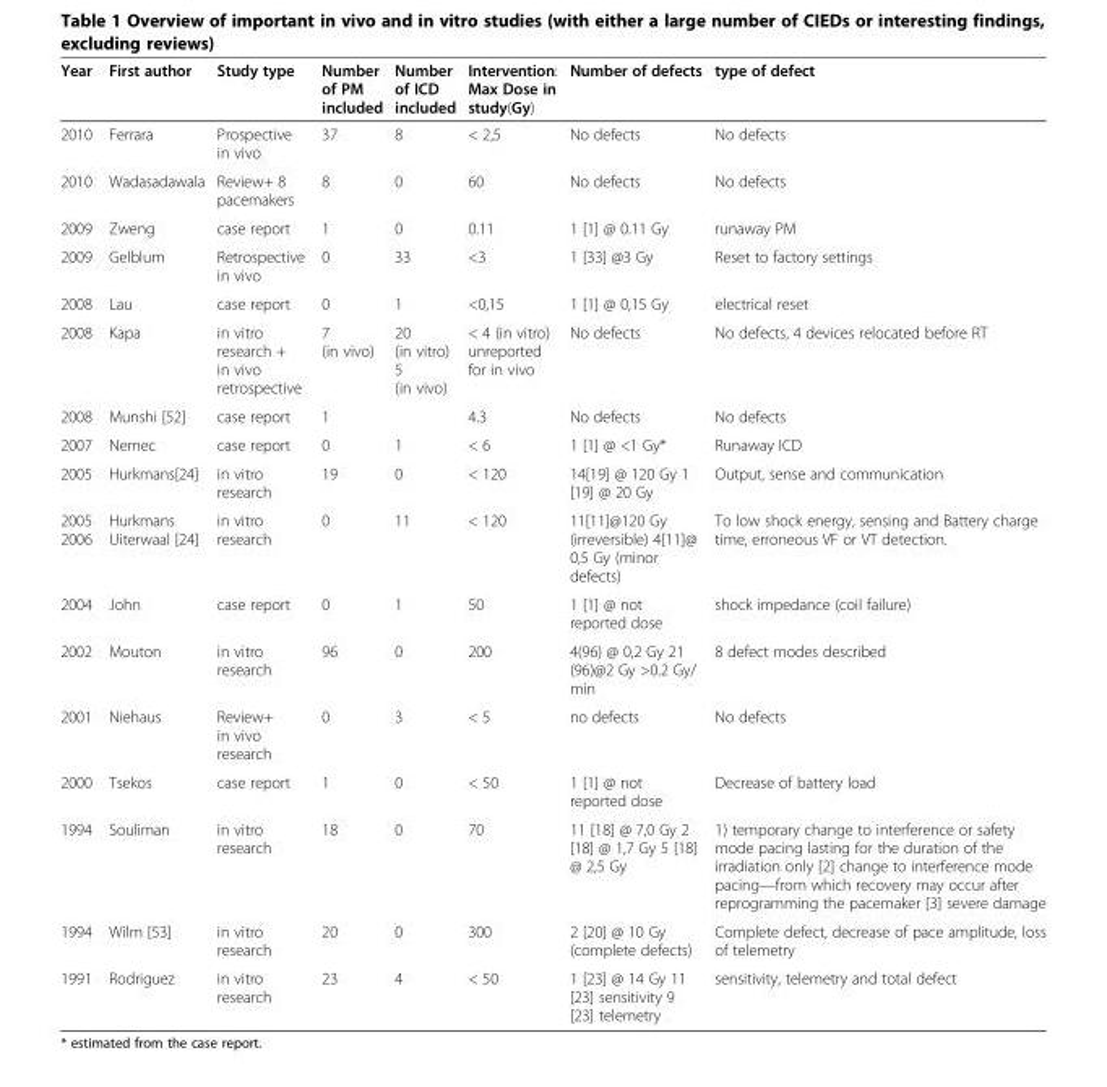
<table><thead><tr><td>Year</td><td>First author</td><td>Study type</td><td>Number of PM included</td><td>Number of ICD included</td><td>Intervention: Max Dose in study(Gy)</td><td>Number of defects</td><td>type of defect</td></tr></thead><tbody><tr><td>2010</td><td>Ferrara</td><td>Prospective in vivo</td><td>37</td><td>8</td><td>&lt; 2,5</td><td>No defects</td><td>No defects</td></tr><tr><td>2010</td><td>Wadasadawala</td><td>Review+ 8 pacemakers</td><td>8</td><td>0</td><td>60</td><td>No defects</td><td>No defects</td></tr><tr><td>2009</td><td>Zweng</td><td>case report</td><td>1</td><td>0</td><td>0.11</td><td>1 [1] @ 0.11 Gy</td><td>runaway PM</td></tr><tr><td>2009</td><td>Gelblum</td><td>Retrospective in vivo</td><td>0</td><td>33</td><td>&lt;3</td><td>1 [33] @3 Gy</td><td>Reset to factory settings</td></tr><tr><td>2008</td><td>Lau</td><td>case report</td><td>0</td><td>1</td><td>&lt;0,15</td><td>1 [1] @ 0,15 Gy</td><td>electrical reset</td></tr><tr><td>2008</td><td>Kapa</td><td>in vitro research + in vivo retrospective</td><td>7 (in vivo)</td><td>20 (in vitro) 5 (in vivo)</td><td>&lt; 4 (in vitro) unreported for in vivo</td><td>No defects</td><td>No defects, 4 devices relocated before RT</td></tr><tr><td>2008</td><td>Munshi [52]</td><td>case report</td><td>1</td><td></td><td>4.3</td><td>No defects</td><td>No defects</td></tr><tr><td>2007</td><td>Nemec</td><td>case report</td><td>0</td><td>1</td><td>&lt; 6</td><td>1 [1] @ &lt;1 Gy*</td><td>Runaway ICD</td></tr><tr><td>2005</td><td>Hurkmans[24]</td><td>in vitro research</td><td>19</td><td>0</td><td>&lt; 120</td><td>14[19] @ 120 Gy 1 [19] @ 20 Gy</td><td>Output, sense and communication</td></tr><tr><td>2005 2006</td><td>Hurkmans Uiterwaal [24]</td><td>in vitro research</td><td>0</td><td>11</td><td>&lt; 120</td><td>11[11]@120 Gy (irreversible) 4[11]@ 0,5 Gy (minor defects)</td><td>To low shock energy, sensing and Battery charge time, erroneous VF or VT detection.</td></tr><tr><td>2004</td><td>John</td><td>case report</td><td>0</td><td>1</td><td>50</td><td>1 [1] @ not reported dose</td><td>shock impedance (coil failure)</td></tr><tr><td>2002</td><td>Mouton</td><td>in vitro research</td><td>96</td><td>0</td><td>200</td><td>4(96) @ 0,2 Gy 21 (96)@2 Gy &gt;0.2 Gy/ min</td><td>8 defect modes described</td></tr><tr><td>2001</td><td>Niehaus</td><td>Review+ in vivo research</td><td>0</td><td>3</td><td>&lt; 5</td><td>no defects</td><td>No defects</td></tr><tr><td>2000</td><td>Tsekos</td><td>case report</td><td>1</td><td>0</td><td>&lt; 50</td><td>1 [1] @ not reported dose</td><td>Decrease of battery load</td></tr><tr><td>1994</td><td>Souliman</td><td>in vitro research</td><td>18</td><td>0</td><td>70</td><td>11 [18] @ 7,0 Gy 2 [18] @ 1,7 Gy 5 [18] @ 2,5 Gy</td><td>1) temporary change to interference or safety mode pacing lasting for the duration of the irradiation only [2] change to interference mode pacing—from which recovery may occur after reprogramming the pacemaker [3] severe damage</td></tr><tr><td>1994</td><td>Wilm [53]</td><td>in vitro research</td><td>20</td><td>0</td><td>300</td><td>2 [20] @ 10 Gy (complete defects)</td><td>Complete defect, decrease of pace amplitude, loss of telemetry</td></tr><tr><td>1991</td><td>Rodriguez</td><td>in vitro research</td><td>23</td><td>4</td><td>&lt; 50</td><td>1 [23] @ 14 Gy 11 [23] sensitivity 9 [23] telemetry</td><td>sensitivity, telemetry and total defect</td></tr></tbody></table>